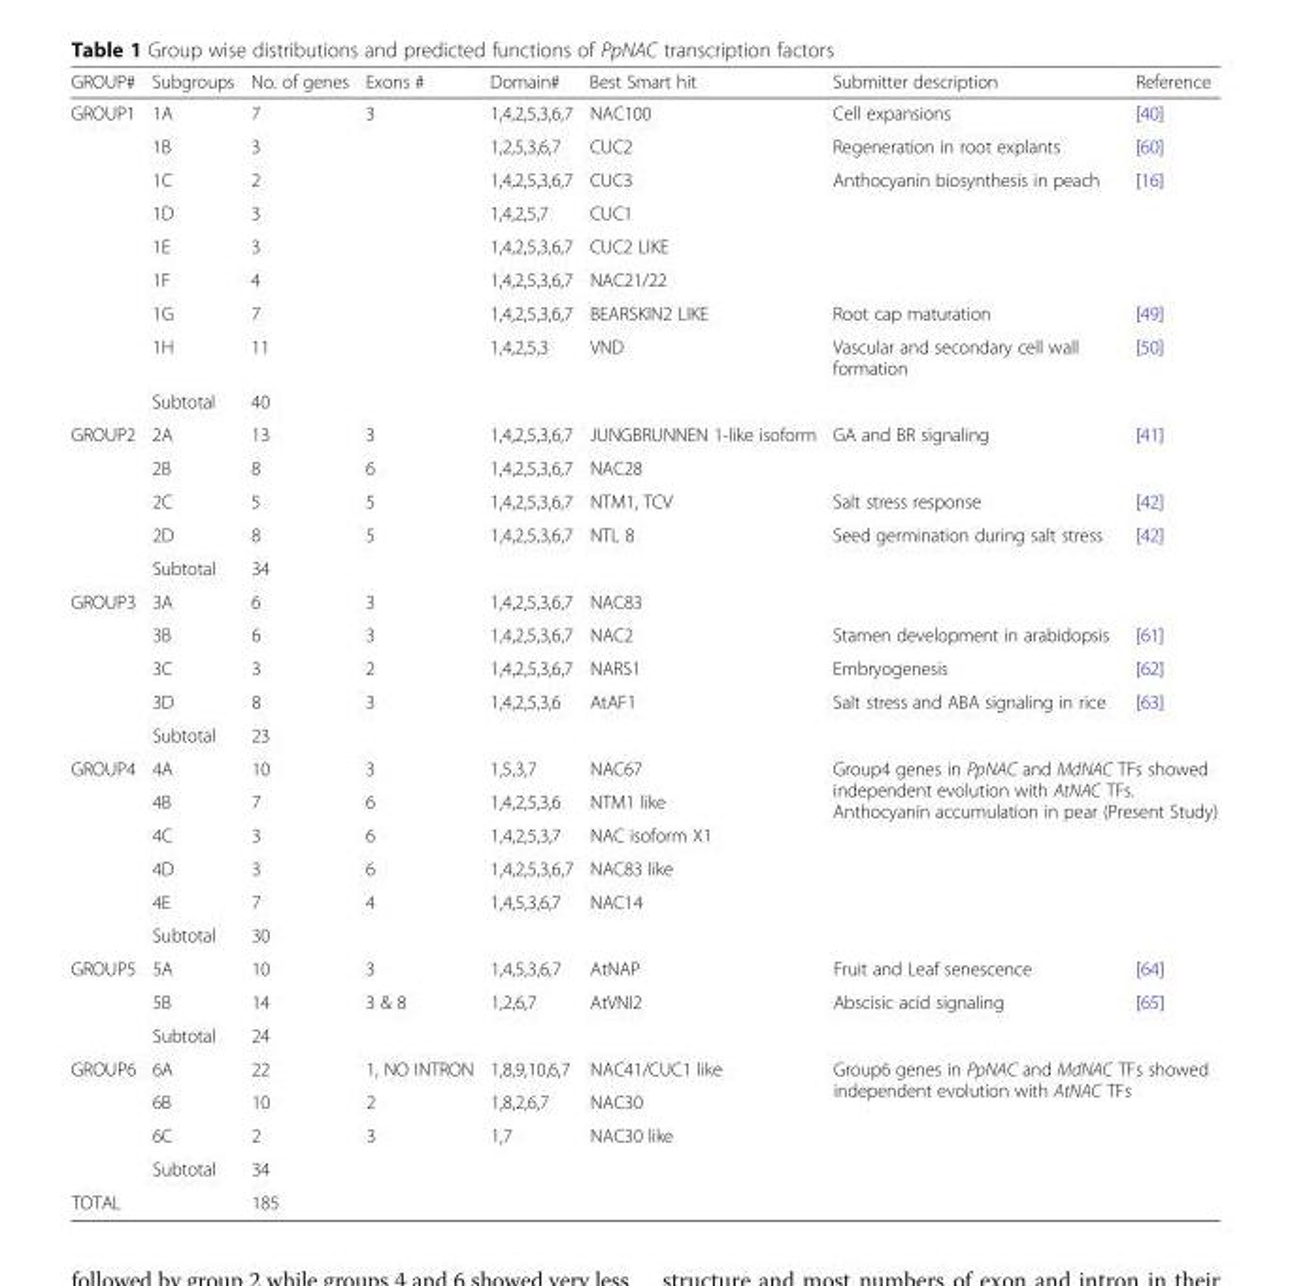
<table><thead><tr><td>GROUP#</td><td>Subgroups</td><td>No. of genes</td><td>Exons #</td><td>Domain#</td><td>Best Smart hit</td><td>Submitter description</td><td>Reference</td></tr></thead><tbody><tr><td rowspan="9">GROUP1</td><td>1A</td><td>7</td><td rowspan="8">3</td><td>1,4,2,5,3,6,7</td><td>NAC100</td><td>Cell expansions</td><td>[40]</td></tr><tr><td>1B</td><td>3</td><td>1,2,5,3,6,7</td><td>CUC2</td><td>Regeneration in root explants</td><td>[60]</td></tr><tr><td>1C</td><td>2</td><td>1,4,2,5,3,6,7</td><td>CUC3</td><td>Anthocyanin biosynthesis in peach</td><td>[16]</td></tr><tr><td>1D</td><td>3</td><td>1,4,2,5,7</td><td>CUC1</td><td></td><td></td></tr><tr><td>1E</td><td>3</td><td>1,4,2,5,3,6,7</td><td>CUC2 LIKE</td><td></td><td></td></tr><tr><td>1F</td><td>4</td><td>1,4,2,5,3,6,7</td><td>NAC21/22</td><td></td><td></td></tr><tr><td>1G</td><td>7</td><td>1,4,2,5,3,6,7</td><td>BEARSKIN2 LIKE</td><td>Root cap maturation</td><td>[49]</td></tr><tr><td>1H</td><td>11</td><td>1,4,2,5,3</td><td>VND</td><td>Vascular and secondary cell wall formation</td><td>[50]</td></tr><tr><td>Subtotal</td><td>40</td><td colspan="5"></td></tr><tr><td rowspan="5">GROUP2</td><td>2A</td><td>13</td><td>3</td><td>1,4,2,5,3,6,7</td><td>JUNGBRUNNEN 1-like isoform</td><td>GA and BR signaling</td><td>[41]</td></tr><tr><td>2B</td><td>8</td><td>6</td><td>1,4,2,5,3,6,7</td><td>NAC28</td><td></td><td></td></tr><tr><td>2C</td><td>5</td><td>5</td><td>1,4,2,5,3,6,7</td><td>NTM1, TCV</td><td>Salt stress response</td><td>[42]</td></tr><tr><td>2D</td><td>8</td><td>5</td><td>1,4,2,5,3,6,7</td><td>NTL 8</td><td>Seed germination during salt stress</td><td>[42]</td></tr><tr><td>Subtotal</td><td>34</td><td colspan="5"></td></tr><tr><td rowspan="5">GROUP3</td><td>3A</td><td>6</td><td>3</td><td>1,4,2,5,3,6,7</td><td>NAC83</td><td></td><td></td></tr><tr><td>3B</td><td>6</td><td>3</td><td>1,4,2,5,3,6,7</td><td>NAC2</td><td>Stamen development in arabidopsis</td><td>[61]</td></tr><tr><td>3C</td><td>3</td><td>2</td><td>1,4,2,5,3,6,7</td><td>NARS1</td><td>Embryogenesis</td><td>[62]</td></tr><tr><td>3D</td><td>8</td><td>3</td><td>1,4,2,5,3,6</td><td>AtAF1</td><td>Salt stress and ABA signaling in rice</td><td>[63]</td></tr><tr><td>Subtotal</td><td>23</td><td colspan="5"></td></tr><tr><td rowspan="6">GROUP4</td><td>4A</td><td>10</td><td>3</td><td>1,5,3,7</td><td>NAC67</td><td rowspan="5" colspan="2">Group4 genes in PpNAC and MdNAC TFs showed independent evolution with AtNAC TFs. Anthocyanin accumulation in pear (Present Study)</td></tr><tr><td>4B</td><td>7</td><td>6</td><td>1,4,2,5,3,6</td><td>NTM1 like</td></tr><tr><td>4C</td><td>3</td><td>6</td><td>1,4,2,5,3,7</td><td>NAC isoform X1</td></tr><tr><td>4D</td><td>3</td><td>6</td><td>1,4,2,5,3,6,7</td><td>NAC83 like</td></tr><tr><td>4E</td><td>7</td><td>4</td><td>1,4,5,3,6,7</td><td>NAC14</td></tr><tr><td>Subtotal</td><td>30</td><td colspan="2"></td><td></td><td colspan="2"></td></tr><tr><td rowspan="3">GROUP5</td><td>5A</td><td>10</td><td>3</td><td>1,4,5,3,6,7</td><td>AtNAP</td><td>Fruit and Leaf senescence</td><td>[64]</td></tr><tr><td>5B</td><td>14</td><td>3 &amp; 8</td><td>1,2,6,7</td><td>AtVNI2</td><td>Abscisic acid signaling</td><td>[65]</td></tr><tr><td>Subtotal</td><td>24</td><td colspan="2"></td><td colspan="3"></td></tr><tr><td rowspan="4">GROUP6</td><td>6A</td><td>22</td><td>1, NO INTRON</td><td>1,8,9,10,6,7</td><td>NAC41/CUC1 like</td><td rowspan="3" colspan="2">Group6 genes in PpNAC and MdNAC TFs showed independent evolution with AtNAC TFs</td></tr><tr><td>6B</td><td>10</td><td>2</td><td>1,8,2,6,7</td><td>NAC30</td></tr><tr><td>6C</td><td>2</td><td>3</td><td>1,7</td><td>NAC30 like</td></tr><tr><td>Subtotal</td><td>34</td><td colspan="3"></td><td colspan="2"></td></tr><tr><td colspan="2">TOTAL</td><td>185</td><td colspan="5"></td></tr></tbody></table>